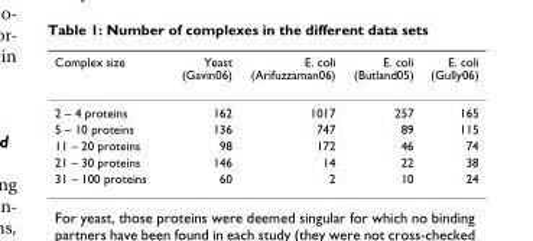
<table><thead><tr><td>Complex size</td><td>Yeast (Gavin06)</td><td>E. coli (Arifuzzaman06)</td><td>E. coli (Butland05)</td><td>E. coli (Gully06)</td></tr></thead><tbody><tr><td>2 – 4 proteins</td><td>162</td><td>1017</td><td>257</td><td>165</td></tr><tr><td>5 – 10 proteins</td><td>136</td><td>747</td><td>89</td><td>115</td></tr><tr><td>11 – 20 proteins</td><td>98</td><td>172</td><td>46</td><td>74</td></tr><tr><td>21 – 30 proteins</td><td>146</td><td>14</td><td>22</td><td>38</td></tr><tr><td>31 – 100 proteins</td><td>60</td><td>2</td><td>10</td><td>24</td></tr></tbody></table>